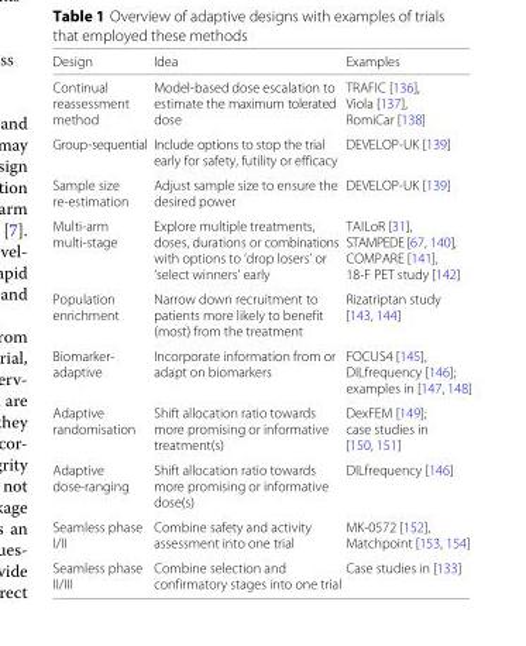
<table><thead><tr><td>Design</td><td>Idea</td><td>Examples</td></tr></thead><tbody><tr><td>Continual reassessment method</td><td>Model-based dose escalation to estimate the maximum tolerated dose</td><td>TRAFIC [136], Viola [137], RomiCar [138]</td></tr><tr><td>Group-sequential</td><td>Include options to stop the trial early for safety, futility or efficacy</td><td>DEVELOP-UK [139]</td></tr><tr><td>Sample size re-estimation</td><td>Adjust sample size to ensure the desired power</td><td>DEVELOP-UK [139]</td></tr><tr><td>Multi-arm multi-stage</td><td>Explore multiple treatments, doses, durations or combinations with options to ‘drop losers’ or ‘select winners’ early</td><td>TAILoR [31], STAMPEDE[67, 140], COMPARE [141], 18-F PET study [142]</td></tr><tr><td>Population enrichment</td><td>Narrow down recruitment to patients more likely to benefit (most) from the treatment</td><td>Rizatriptan study [143, 144]</td></tr><tr><td>Biomarker- adaptive</td><td>Incorporate information from or adapt on biomarkers</td><td>FOCUS4 [145], DILfrequency [146]; examples in [147, 148]</td></tr><tr><td>Adaptive randomisation</td><td>Shift allocation ratio towards more promising or informative treatment(s)</td><td>DexFEM [149]; case studies in [150, 151]</td></tr><tr><td>Adaptive dose-ranging</td><td>Shift allocation ratio towards more promising or informative dose(s)</td><td>DILfrequency [146]</td></tr><tr><td>Seamless phase I/II</td><td>Combine safety and activity assessment into one trial</td><td>MK-0572 [152], Matchpoint [153, 154]</td></tr><tr><td>Seamless phase II/III</td><td>Combine selection and confirmatory stages into one trial</td><td>Case studies in [133]</td></tr></tbody></table>